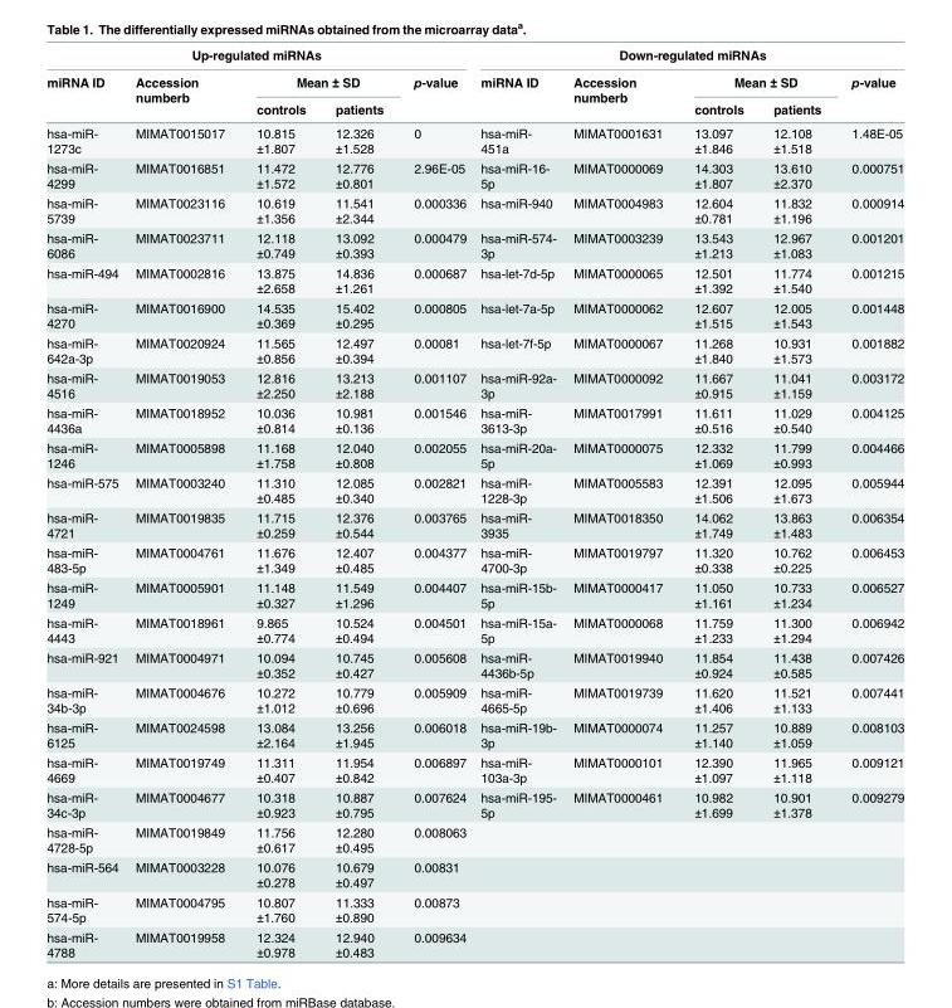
<table><thead><tr><td colspan="5">Up-regulated miRNAs</td><td colspan="5">Down-regulated miRNAs</td></tr><tr><td rowspan="2">miRNA ID</td><td rowspan="2">Accession number<sup>b</sup></td><td colspan="2">Mean ± SD</td><td rowspan="2">p-value</td><td rowspan="2">miRNA ID</td><td rowspan="2">Accession number<sup>b</sup></td><td colspan="2">Mean ± SD</td><td rowspan="2">p-value</td></tr><tr><td>controls</td><td>patients</td><td>controls</td><td>patients</td></tr></thead><tbody><tr><td>hsa-miR- 1273c</td><td>MIMAT0015017</td><td>10.815 ±1.807</td><td>12.326 ±1.528</td><td>0</td><td>hsa-miR- 451a</td><td>MIMAT0001631</td><td>13.097 ±1.846</td><td>12.108 ±1.518</td><td>1.48E-05</td></tr><tr><td>hsa-miR- 4299</td><td>MIMAT0016851</td><td>11.472 ±1.572</td><td>12.776 ±0.801</td><td>2.96E-05</td><td>hsa-miR-16- 5p</td><td>MIMAT0000069</td><td>14.303 ±1.807</td><td>13.610 ±2.370</td><td>0.000751</td></tr><tr><td>hsa-miR- 5739</td><td>MIMAT0023116</td><td>10.619 ±1.356</td><td>11.541 ±2.344</td><td>0.000336</td><td>hsa-miR-940</td><td>MIMAT0004983</td><td>12.604 ±0.781</td><td>11.832 ±1.196</td><td>0.000914</td></tr><tr><td>hsa-miR- 6086</td><td>MIMAT0023711</td><td>12.118 ±0.749</td><td>13.092 ±0.393</td><td>0.000479</td><td>hsa-miR-574- 3p</td><td>MIMAT0003239</td><td>13.543 ±1.213</td><td>12.967 ±1.083</td><td>0.001201</td></tr><tr><td>hsa-miR-494</td><td>MIMAT0002816</td><td>13.875 ±2.658</td><td>14.836 ±1.261</td><td>0.000687</td><td>hsa-let-7d-5p</td><td>MIMAT0000065</td><td>12.501 ±1.392</td><td>11.774 ±1.540</td><td>0.001215</td></tr><tr><td>hsa-miR- 4270</td><td>MIMAT0016900</td><td>14.535 ±0.369</td><td>15.402 ±0.295</td><td>0.000805</td><td>hsa-let-7a-5p</td><td>MIMAT0000062</td><td>12.607 ±1.515</td><td>12.005 ±1.543</td><td>0.001448</td></tr><tr><td>hsa-miR- 642a-3p</td><td>MIMAT0020924</td><td>11.565 ±0.856</td><td>12.497 ±0.394</td><td>0.00081</td><td>hsa-let-7f-5p</td><td>MIMAT0000067</td><td>11.268 ±1.840</td><td>10.931 ±1.573</td><td>0.001882</td></tr><tr><td>hsa-miR- 4516</td><td>MIMAT0019053</td><td>12.816 ±2.250</td><td>13.213 ±2.188</td><td>0.001107</td><td>hsa-miR-92a- 3p</td><td>MIMAT0000092</td><td>11.667 ±0.915</td><td>11.041 ±1.159</td><td>0.003172</td></tr><tr><td>hsa-miR- 4436a</td><td>MIMAT0018952</td><td>10.036 ±0.814</td><td>10.981 ±0.136</td><td>0.001546</td><td>hsa-miR- 3613-3p</td><td>MIMAT0017991</td><td>11.611 ±0.516</td><td>11.029 ±0.540</td><td>0.004125</td></tr><tr><td>hsa-miR- 1246</td><td>MIMAT0005898</td><td>11.168 ±1.758</td><td>12.040 ±0.808</td><td>0.002055</td><td>hsa-miR-20a- 5p</td><td>MIMAT0000075</td><td>12.332 ±1.069</td><td>11.799 ±0.993</td><td>0.004466</td></tr><tr><td>hsa-miR-575</td><td>MIMAT0003240</td><td>11.310 ±0.485</td><td>12.085 ±0.340</td><td>0.002821</td><td>hsa-miR- 1228-3p</td><td>MIMAT0005583</td><td>12.391 ±1.506</td><td>12.095 ±1.673</td><td>0.005944</td></tr><tr><td>hsa-miR- 4721</td><td>MIMAT0019835</td><td>11.715 ±0.259</td><td>12.376 ±0.544</td><td>0.003765</td><td>hsa-miR- 3935</td><td>MIMAT0018350</td><td>14.062 ±1.749</td><td>13.863 ±1.483</td><td>0.006354</td></tr><tr><td>hsa-miR- 483-5p</td><td>MIMAT0004761</td><td>11.676 ±1.349</td><td>12.407 ±0.485</td><td>0.004377</td><td>hsa-miR- 4700-3p</td><td>MIMAT0019797</td><td>11.320 ±0.338</td><td>10.762 ±0.225</td><td>0.006453</td></tr><tr><td>hsa-miR- 1249</td><td>MIMAT0005901</td><td>11.148 ±0.327</td><td>11.549 ±1.296</td><td>0.004407</td><td>hsa-miR-15b- 5p</td><td>MIMAT0000417</td><td>11.050 ±1.161</td><td>10.733 ±1.234</td><td>0.006527</td></tr><tr><td>hsa-miR- 4443</td><td>MIMAT0018961</td><td>9.865 ±0.774</td><td>10.524 ±0.494</td><td>0.004501</td><td>hsa-miR-15a- 5p</td><td>MIMAT0000068</td><td>11.759 ±1.233</td><td>11.300 ±1.294</td><td>0.006942</td></tr><tr><td>hsa-miR-921</td><td>MIMAT0004971</td><td>10.094 ±0.352</td><td>10.745 ±0.427</td><td>0.005608</td><td>hsa-miR- 4436b-5p</td><td>MIMAT0019940</td><td>11.854 ±0.924</td><td>11.438 ±0.585</td><td>0.007426</td></tr><tr><td>hsa-miR- 34b-3p</td><td>MIMAT0004676</td><td>10.272 ±1.012</td><td>10.779 ±0.696</td><td>0.005909</td><td>hsa-miR- 4665-5p</td><td>MIMAT0019739</td><td>11.620 ±1.406</td><td>11.521 ±1.133</td><td>0.007441</td></tr><tr><td>hsa-miR- 6125</td><td>MIMAT0024598</td><td>13.084 ±2.164</td><td>13.256 ±1.945</td><td>0.006018</td><td>hsa-miR-19b- 3p</td><td>MIMAT0000074</td><td>11.257 ±1.140</td><td>10.889 ±1.059</td><td>0.008103</td></tr><tr><td>hsa-miR- 4669</td><td>MIMAT0019749</td><td>11.311 ±0.407</td><td>11.954 ±0.842</td><td>0.006897</td><td>hsa-miR- 103a-3p</td><td>MIMAT0000101</td><td>12.390 ±1.097</td><td>11.965 ±1.118</td><td>0.009121</td></tr><tr><td>hsa-miR- 34c-3p</td><td>MIMAT0004677</td><td>10.318 ±0.923</td><td>10.887 ±0.795</td><td>0.007624</td><td>hsa-miR-195- 5p</td><td>MIMAT0000461</td><td>10.982 ±1.699</td><td>10.901 ±1.378</td><td>0.009279</td></tr><tr><td>hsa-miR- 4728-5p</td><td>MIMAT0019849</td><td>11.756 ±0.617</td><td>12.280 ±0.495</td><td>0.008063</td><td></td><td></td><td></td><td></td><td></td></tr><tr><td>hsa-miR-564</td><td>MIMAT0003228</td><td>10.076 ±0.278</td><td>10.679 ±0.497</td><td>0.00831</td><td></td><td></td><td></td><td></td><td></td></tr><tr><td>hsa-miR- 574-5p</td><td>MIMAT0004795</td><td>10.807 ±1.760</td><td>11.333 ±0.890</td><td>0.00873</td><td></td><td></td><td></td><td></td><td></td></tr><tr><td>hsa-miR- 4788</td><td>MIMAT0019958</td><td>12.324 ±0.978</td><td>12.940 ±0.483</td><td>0.009634</td><td></td><td></td><td></td><td></td><td></td></tr></tbody></table>